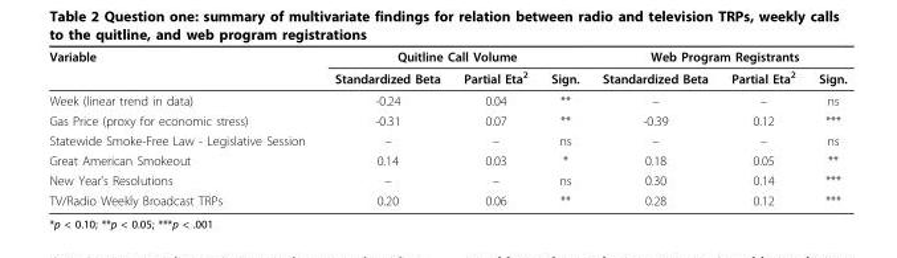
<table><thead><tr><td rowspan="2">Variable</td><td colspan="3">Quitline Call Volume</td><td colspan="3">Web Program Registrants</td></tr><tr><td>Standardized Beta</td><td>Partial Eta<sup>2</sup></td><td>Sign.</td><td>Standardized Beta</td><td>Partial Eta<sup>2</sup></td><td>Sign.</td></tr></thead><tbody><tr><td>Week (linear trend in data)</td><td>-0.24</td><td>0.04</td><td>**</td><td>–</td><td>–</td><td>ns</td></tr><tr><td>Gas Price (proxy for economic stress)</td><td>-0.31</td><td>0.07</td><td>**</td><td>-0.39</td><td>0.12</td><td>***</td></tr><tr><td>Statewide Smoke-Free Law - Legislative Session</td><td>–</td><td>–</td><td>ns</td><td>–</td><td>–</td><td>ns</td></tr><tr><td>Great American Smokeout</td><td>0.14</td><td>0.03</td><td>*</td><td>0.18</td><td>0.05</td><td>**</td></tr><tr><td>New Year’s Resolutions</td><td>–</td><td>–</td><td>ns</td><td>0.30</td><td>0.14</td><td>***</td></tr><tr><td>TV/Radio Weekly Broadcast TRPs</td><td>0.20</td><td>0.06</td><td>**</td><td>0.28</td><td>0.12</td><td>***</td></tr></tbody></table>